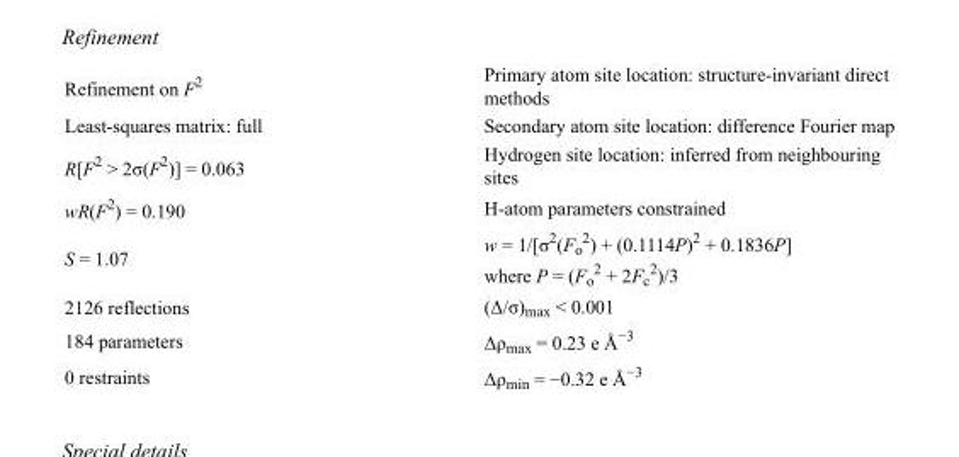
<table><tbody><tr><td>Refinement on F<sup>2</sup></td><td>Primary atom site location: structure-invariant direct methods</td></tr><tr><td>Least-squares matrix: full</td><td>Secondary atom site location: difference Fourier map</td></tr><tr><td>R[F<sup>2</sup> &gt; 2σ(F<sup>2</sup>)] = 0.063</td><td>Hydrogen site location: inferred from neighbouring sites</td></tr><tr><td>wR(F<sup>2</sup>) = 0.190</td><td>H-atom parameters constrained</td></tr><tr><td>S = 1.07</td><td>w = 1/[σ<sup>2</sup>(F<sub>o</sub> <sup>2</sup>) + (0.1114P)<sup>2</sup> + 0.1836P] where P = (F<sub>o</sub> <sup>2</sup> + 2F<sub>c</sub> <sup>2</sup>)/3</td></tr><tr><td>2126 reflections</td><td>(Δ/σ)<sub>max</sub> &lt; 0.001</td></tr><tr><td>184 parameters</td><td>Δρ<sub>max</sub> = 0.23 e Å<sup>−3</sup></td></tr><tr><td>0 restraints</td><td>Δρ<sub>min</sub> = −0.32 e Å<sup>−3</sup></td></tr></tbody></table>